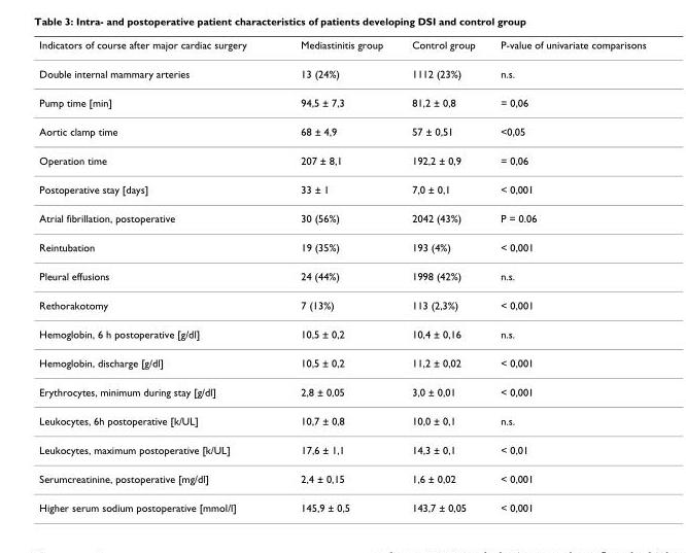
<table><thead><tr><td>Indicators of course after major cardiac surgery</td><td>Mediastinitis group</td><td>Control group</td><td>P-value of univariate comparisons</td></tr></thead><tbody><tr><td>Double internal mammary arteries</td><td>13 (24%)</td><td>1112 (23%)</td><td>n.s.</td></tr><tr><td>Pump time [min]</td><td>94,5 ± 7,3</td><td>81,2 ± 0,8</td><td>= 0,06</td></tr><tr><td>Aortic clamp time</td><td>68 ± 4,9</td><td>57 ± 0,51</td><td>&lt;0,05</td></tr><tr><td>Operation time</td><td>207 ± 8,1</td><td>192,2 ± 0,9</td><td>= 0,06</td></tr><tr><td>Postoperative stay [days]</td><td>33 ± 1</td><td>7,0 ± 0,1</td><td>&lt; 0,001</td></tr><tr><td>Atrial fibrillation, postoperative</td><td>30 (56%)</td><td>2042 (43%)</td><td>P = 0.06</td></tr><tr><td>Reintubation</td><td>19 (35%)</td><td>193 (4%)</td><td>&lt; 0,001</td></tr><tr><td>Pleural effusions</td><td>24 (44%)</td><td>1998 (42%)</td><td>n.s.</td></tr><tr><td>Rethorakotomy</td><td>7 (13%)</td><td>113 (2,3%)</td><td>&lt; 0,001</td></tr><tr><td>Hemoglobin, 6 h postoperative [g/dl]</td><td>10,5 ± 0,2</td><td>10,4 ± 0,16</td><td>n.s.</td></tr><tr><td>Hemoglobin, discharge [g/dl]</td><td>10,5 ± 0,2</td><td>11,2 ± 0,02</td><td>&lt; 0,001</td></tr><tr><td>Erythrocytes, minimum during stay [g/dl]</td><td>2,8 ± 0,05</td><td>3,0 ± 0,01</td><td>&lt; 0,001</td></tr><tr><td>Leukocytes, 6h postoperative [k/UL]</td><td>10,7 ± 0,8</td><td>10,0 ± 0,1</td><td>n.s.</td></tr><tr><td>Leukocytes, maximum postoperative [k/UL]</td><td>17,6 ± 1,1</td><td>14,3 ± 0,1</td><td>&lt; 0,01</td></tr><tr><td>Serumcreatinine, postoperative [mg/dl]</td><td>2,4 ± 0,15</td><td>1,6 ± 0,02</td><td>&lt; 0,001</td></tr><tr><td>Higher serum sodium postoperative [mmol/l]</td><td>145,9 ± 0,5</td><td>143,7 ± 0,05</td><td>&lt; 0,001</td></tr></tbody></table>